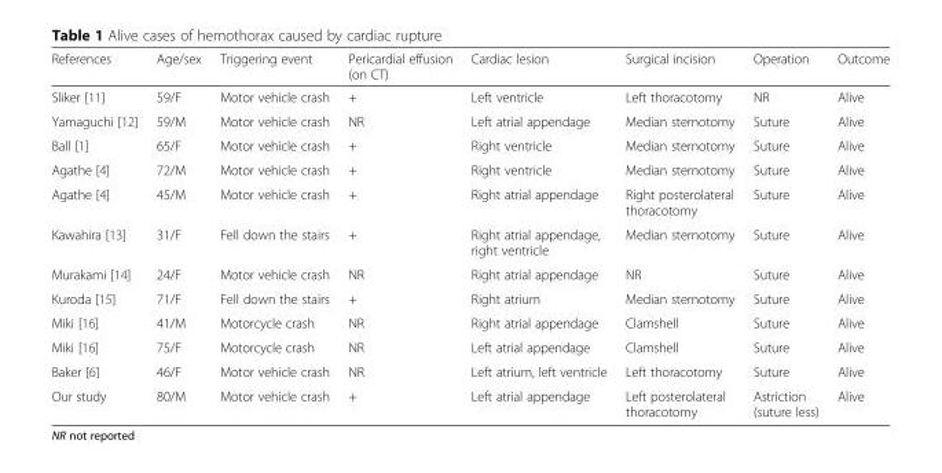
<table><thead><tr><td>References</td><td>Age/sex</td><td>Triggering event</td><td>Pericardial effusion (on CT)</td><td>Cardiac lesion</td><td>Surgical incision</td><td>Operation</td><td>Outcome</td></tr></thead><tbody><tr><td>Sliker [11]</td><td>59/F</td><td>Motor vehicle crash</td><td>+</td><td>Left ventricle</td><td>Left thoracotomy</td><td>NR</td><td>Alive</td></tr><tr><td>Yamaguchi [12]</td><td>59/M</td><td>Motor vehicle crash</td><td>NR</td><td>Left atrial appendage</td><td>Median sternotomy</td><td>Suture</td><td>Alive</td></tr><tr><td>Ball [1]</td><td>65/F</td><td>Motor vehicle crash</td><td>+</td><td>Right ventricle</td><td>Median sternotomy</td><td>Suture</td><td>Alive</td></tr><tr><td>Agathe [4]</td><td>72/M</td><td>Motor vehicle crash</td><td>+</td><td>Right ventricle</td><td>Median sternotomy</td><td>Suture</td><td>Alive</td></tr><tr><td>Agathe [4]</td><td>45/M</td><td>Motor vehicle crash</td><td>+</td><td>Right atrial appendage</td><td>Right posterolateral thoracotomy</td><td>Suture</td><td>Alive</td></tr><tr><td>Kawahira [13]</td><td>31/F</td><td>Fell down the stairs</td><td>+</td><td>Right atrial appendage, right ventricle</td><td>Median sternotomy</td><td>Suture</td><td>Alive</td></tr><tr><td>Murakami [14]</td><td>24/F</td><td>Motor vehicle crash</td><td>NR</td><td>Right atrial appendage</td><td>NR</td><td>Suture</td><td>Alive</td></tr><tr><td>Kuroda [15]</td><td>71/F</td><td>Fell down the stairs</td><td>+</td><td>Right atrium</td><td>Median sternotomy</td><td>Suture</td><td>Alive</td></tr><tr><td>Miki [16]</td><td>41/M</td><td>Motorcycle crash</td><td>NR</td><td>Right atrial appendage</td><td>Clamshell</td><td>Suture</td><td>Alive</td></tr><tr><td>Miki [16]</td><td>75/F</td><td>Motorcycle crash</td><td>NR</td><td>Left atrial appendage</td><td>Clamshell</td><td>Suture</td><td>Alive</td></tr><tr><td>Baker [6]</td><td>46/F</td><td>Motor vehicle crash</td><td>NR</td><td>Left atrium, left ventricle</td><td>Left thoracotomy</td><td>Suture</td><td>Alive</td></tr><tr><td>Our study</td><td>80/M</td><td>Motor vehicle crash</td><td>+</td><td>Left atrial appendage</td><td>Left posterolateral thoracotomy</td><td>Astriction (suture less)</td><td>Alive</td></tr></tbody></table>